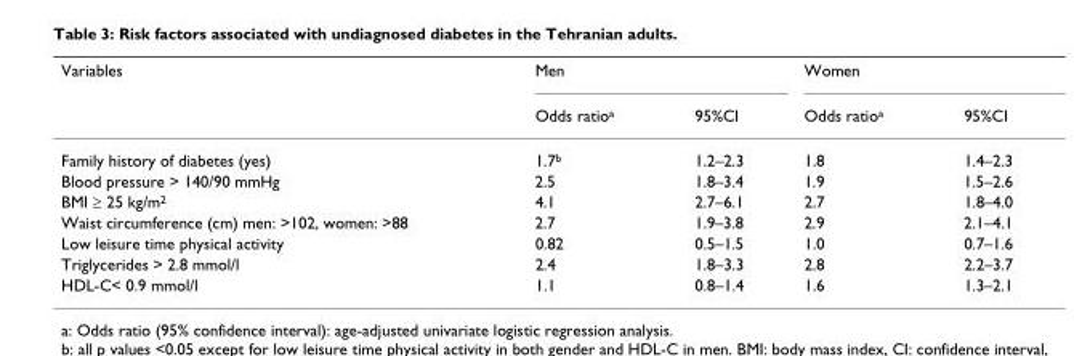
<table><thead><tr><td rowspan="2">Variables</td><td colspan="2">Men</td><td colspan="2">Women</td></tr><tr><td>Odds ratio<sup>a</sup></td><td>95%CI</td><td>Odds ratio<sup>a</sup></td><td>95%CI</td></tr></thead><tbody><tr><td>Family history of diabetes (yes)</td><td>1.7<sup>b</sup></td><td>1.2–2.3</td><td>1.8</td><td>1.4–2.3</td></tr><tr><td>Blood pressure &gt; 140/90 mmHg</td><td>2.5</td><td>1.8–3.4</td><td>1.9</td><td>1.5–2.6</td></tr><tr><td>BMI ≥ 25 kg/m<sup>2</sup></td><td>4.1</td><td>2.7–6.1</td><td>2.7</td><td>1.8–4.0</td></tr><tr><td>Waist circumference (cm) men: &gt;102, women: &gt;88</td><td>2.7</td><td>1.9–3.8</td><td>2.9</td><td>2.1–4.1</td></tr><tr><td>Low leisure time physical activity</td><td>0.82</td><td>0.5–1.5</td><td>1.0</td><td>0.7–1.6</td></tr><tr><td>Triglycerides &gt; 2.8 mmol/l</td><td>2.4</td><td>1.8–3.3</td><td>2.8</td><td>2.2–3.7</td></tr><tr><td>HDL-C&lt; 0.9 mmol/l</td><td>1.1</td><td>0.8–1.4</td><td>1.6</td><td>1.3–2.1</td></tr></tbody></table>